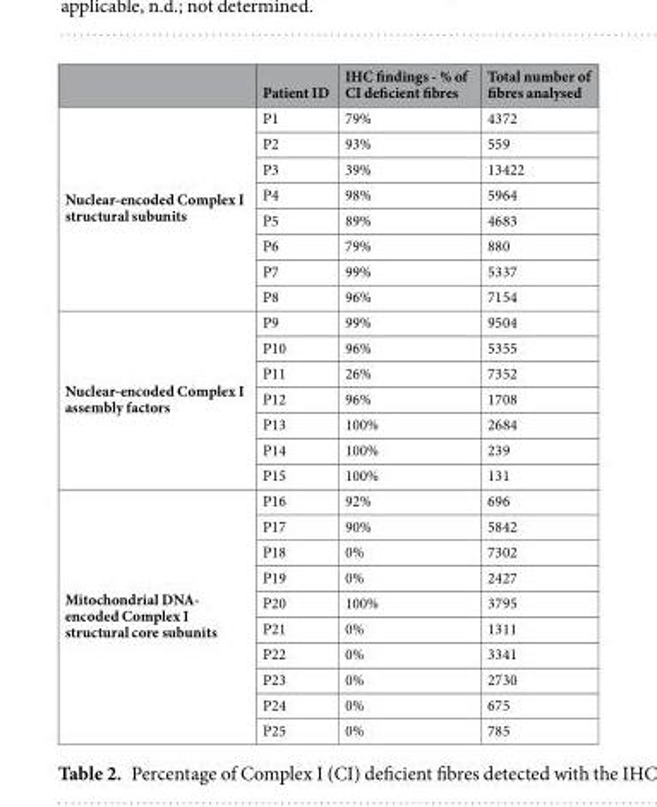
<table><thead><tr><td></td><td>Patient ID</td><td>IHC findings - % of CI deficient fibres</td><td>Total number of fibres analysed</td></tr></thead><tbody><tr><td rowspan="8">Nuclear-encoded Complex I structural subunits</td><td>P1</td><td>79%</td><td>4372</td></tr><tr><td>P2</td><td>93%</td><td>559</td></tr><tr><td>P3</td><td>39%</td><td>13422</td></tr><tr><td>P4</td><td>98%</td><td>5964</td></tr><tr><td>P5</td><td>89%</td><td>4683</td></tr><tr><td>P6</td><td>79%</td><td>880</td></tr><tr><td>P7</td><td>99%</td><td>5337</td></tr><tr><td>P8</td><td>96%</td><td>7154</td></tr><tr><td rowspan="7">Nuclear-encoded Complex I assembly factors</td><td>P9</td><td>99%</td><td>9504</td></tr><tr><td>P10</td><td>96%</td><td>5355</td></tr><tr><td>P11</td><td>26%</td><td>7352</td></tr><tr><td>P12</td><td>96%</td><td>1708</td></tr><tr><td>P13</td><td>100%</td><td>2684</td></tr><tr><td>P14</td><td>100%</td><td>239</td></tr><tr><td>P15</td><td>100%</td><td>131</td></tr><tr><td rowspan="10">Mitochondrial DNA- encoded Complex I structural core subunits</td><td>P16</td><td>92%</td><td>696</td></tr><tr><td>P17</td><td>90%</td><td>5842</td></tr><tr><td>P18</td><td>0%</td><td>7302</td></tr><tr><td>P19</td><td>0%</td><td>2427</td></tr><tr><td>P20</td><td>100%</td><td>3795</td></tr><tr><td>P21</td><td>0%</td><td>1311</td></tr><tr><td>P22</td><td>0%</td><td>3341</td></tr><tr><td>P23</td><td>0%</td><td>2730</td></tr><tr><td>P24</td><td>0%</td><td>675</td></tr><tr><td>P25</td><td>0%</td><td>785</td></tr></tbody></table>